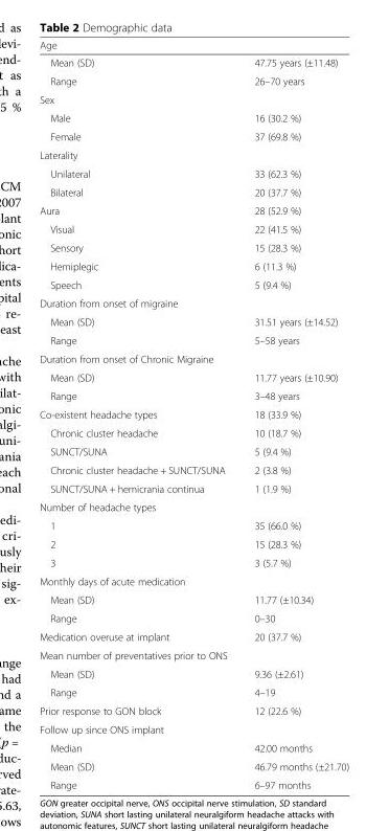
<table><thead><tr><td colspan="2">Age</td></tr><tr><td>Mean (SD)</td><td>47.75 years (±11.48)</td></tr></thead><tbody><tr><td>Range</td><td>26–70 years</td></tr><tr><td colspan="2">Sex</td></tr><tr><td>Male</td><td>16 (30.2 %)</td></tr><tr><td>Female</td><td>37 (69.8 %)</td></tr><tr><td colspan="2">Laterality</td></tr><tr><td>Unilateral</td><td>33 (62.3 %)</td></tr><tr><td>Bilateral</td><td>20 (37.7 %)</td></tr><tr><td>Aura</td><td>28 (52.9 %)</td></tr><tr><td>Visual</td><td>22 (41.5 %)</td></tr><tr><td>Sensory</td><td>15 (28.3 %)</td></tr><tr><td>Hemiplegic</td><td>6 (11.3 %)</td></tr><tr><td>Speech</td><td>5 (9.4 %)</td></tr><tr><td colspan="2">Duration from onset of migraine</td></tr><tr><td>Mean (SD)</td><td>31.51 years (±14.52)</td></tr><tr><td>Range</td><td>5–58 years</td></tr><tr><td colspan="2">Duration from onset of Chronic Migraine</td></tr><tr><td>Mean (SD)</td><td>11.77 years (±10.90)</td></tr><tr><td>Range</td><td>3–48 years</td></tr><tr><td>Co-existent headache types</td><td>18 (33.9 %)</td></tr><tr><td>Chronic cluster headache</td><td>10 (18.7 %)</td></tr><tr><td>SUNCT/SUNA</td><td>5 (9.4 %)</td></tr><tr><td>Chronic cluster headache + SUNCT/SUNA</td><td>2 (3.8 %)</td></tr><tr><td>SUNCT/SUNA + hemicrania continua</td><td>1 (1.9 %)</td></tr><tr><td colspan="2">Number of headache types</td></tr><tr><td>1</td><td>35 (66.0 %)</td></tr><tr><td>2</td><td>15 (28.3 %)</td></tr><tr><td>3</td><td>3 (5.7 %)</td></tr><tr><td colspan="2">Monthly days of acute medication</td></tr><tr><td>Mean (SD)</td><td>11.77 (±10.34)</td></tr><tr><td>Range</td><td>0–30</td></tr><tr><td>Medication overuse at implant</td><td>20 (37.7 %)</td></tr><tr><td colspan="2">Mean number of preventatives prior to ONS</td></tr><tr><td>Mean (SD)</td><td>9.36 (±2.61)</td></tr><tr><td>Range</td><td>4–19</td></tr><tr><td>Prior response to GON block</td><td>12 (22.6 %)</td></tr><tr><td colspan="2">Follow up since ONS implant</td></tr><tr><td>Median</td><td>42.00 months</td></tr><tr><td>Mean (SD)</td><td>46.79 months (±21.70)</td></tr><tr><td>Range</td><td>6–97 months</td></tr></tbody></table>